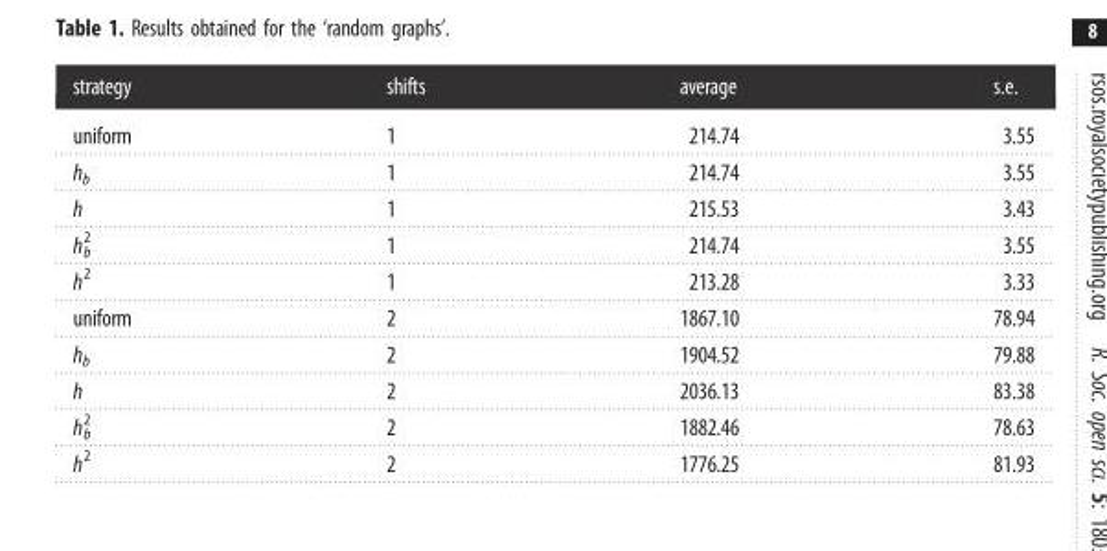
<table><thead><tr><td>strategy</td><td>shifts</td><td>average</td><td>s.e.</td></tr></thead><tbody><tr><td>uniform</td><td>1</td><td>214.74</td><td>3.55</td></tr><tr><td>h<sub>b</sub></td><td>1</td><td>214.74</td><td>3.55</td></tr><tr><td>h</td><td>1</td><td>215.53</td><td>3.43</td></tr><tr><td>h<sup>2</sup> <sub>b</sub></td><td>1</td><td>214.74</td><td>3.55</td></tr><tr><td>h<sup>2</sup></td><td>1</td><td>213.28</td><td>3.33</td></tr><tr><td>uniform</td><td>2</td><td>1867.10</td><td>78.94</td></tr><tr><td>h<sub>b</sub></td><td>2</td><td>1904.52</td><td>79.88</td></tr><tr><td>h</td><td>2</td><td>2036.13</td><td>83.38</td></tr><tr><td>h<sup>2</sup> <sub>b</sub></td><td>2</td><td>1882.46</td><td>78.63</td></tr><tr><td>h<sup>2</sup></td><td>2</td><td>1776.25</td><td>81.93</td></tr></tbody></table>